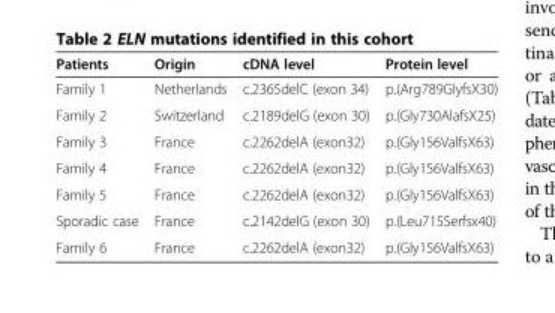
<table><thead><tr><td>Patients</td><td>Origin</td><td>cDNA level</td><td>Protein level</td></tr></thead><tbody><tr><td>Family 1</td><td>Netherlands</td><td>c.2365delC (exon 34)</td><td>p.(Arg789GlyfsX30)</td></tr><tr><td>Family 2</td><td>Switzerland</td><td>c.2189delG (exon 30)</td><td>p.(Gly730AlafsX25)</td></tr><tr><td>Family 3</td><td>France</td><td>c.2262delA (exon32)</td><td>p.(Gly156ValfsX63)</td></tr><tr><td>Family 4</td><td>France</td><td>c.2262delA (exon32)</td><td>p.(Gly156ValfsX63)</td></tr><tr><td>Family 5</td><td>France</td><td>c.2262delA (exon32)</td><td>p.(Gly156ValfsX63)</td></tr><tr><td>Sporadic case</td><td>France</td><td>c.2142delG (exon 30)</td><td>p.(Leu715Serfsx40)</td></tr><tr><td>Family 6</td><td>France</td><td>c.2262delA (exon32)</td><td>p.(Gly156ValfsX63)</td></tr></tbody></table>